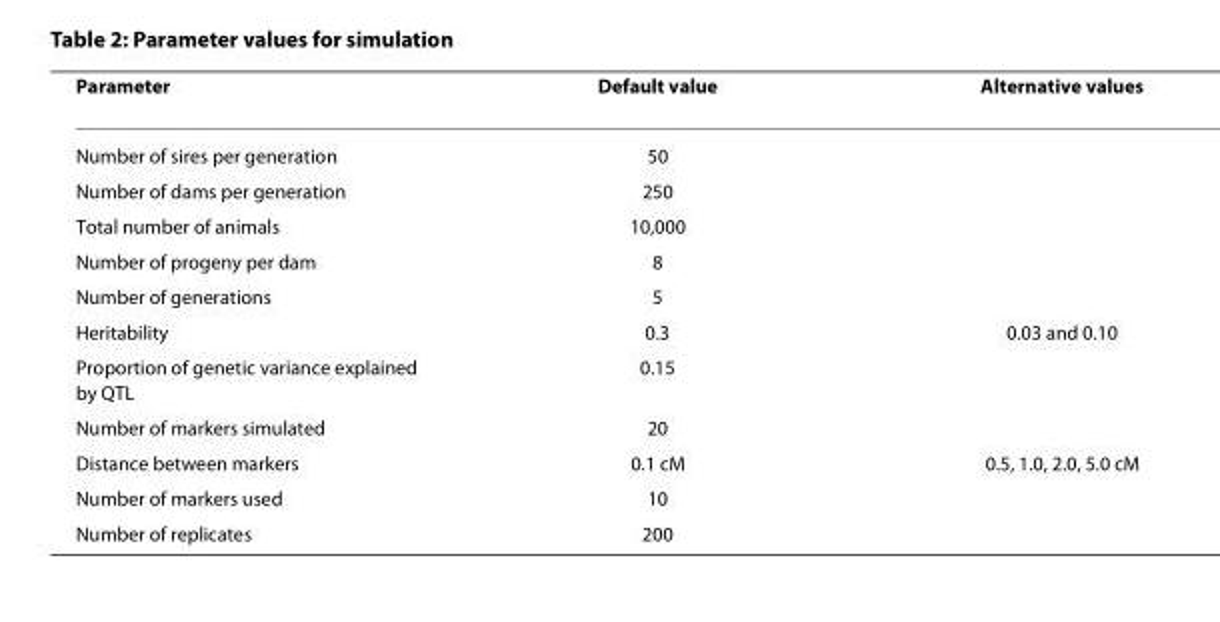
<table><thead><tr><td>Parameter</td><td>Default value</td><td>Alternative values</td></tr></thead><tbody><tr><td>Number of sires per generation</td><td>50</td><td></td></tr><tr><td>Number of dams per generation</td><td>250</td><td></td></tr><tr><td>Total number of animals</td><td>10,000</td><td></td></tr><tr><td>Number of progeny per dam</td><td>8</td><td></td></tr><tr><td>Number of generations</td><td>5</td><td></td></tr><tr><td>Heritability</td><td>0.3</td><td>0.03 and 0.10</td></tr><tr><td>Proportion of genetic variance explained by QTL</td><td>0.15</td><td></td></tr><tr><td>Number of markers simulated</td><td>20</td><td></td></tr><tr><td>Distance between markers</td><td>0.1 cM</td><td>0.5, 1.0, 2.0, 5.0 cM</td></tr><tr><td>Number of markers used</td><td>10</td><td></td></tr><tr><td>Number of replicates</td><td>200</td><td></td></tr></tbody></table>